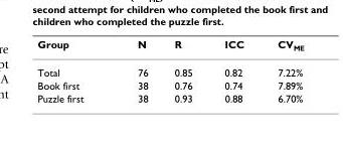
<table><thead><tr><td>Group</td><td>N</td><td>R</td><td>ICC</td><td>CV<sub>ME</sub></td></tr></thead><tbody><tr><td>Total</td><td>76</td><td>0.85</td><td>0.82</td><td>7.22%</td></tr><tr><td>Book first</td><td>38</td><td>0.76</td><td>0.74</td><td>7.89%</td></tr><tr><td>Puzzle first</td><td>38</td><td>0.93</td><td>0.88</td><td>6.70%</td></tr></tbody></table>